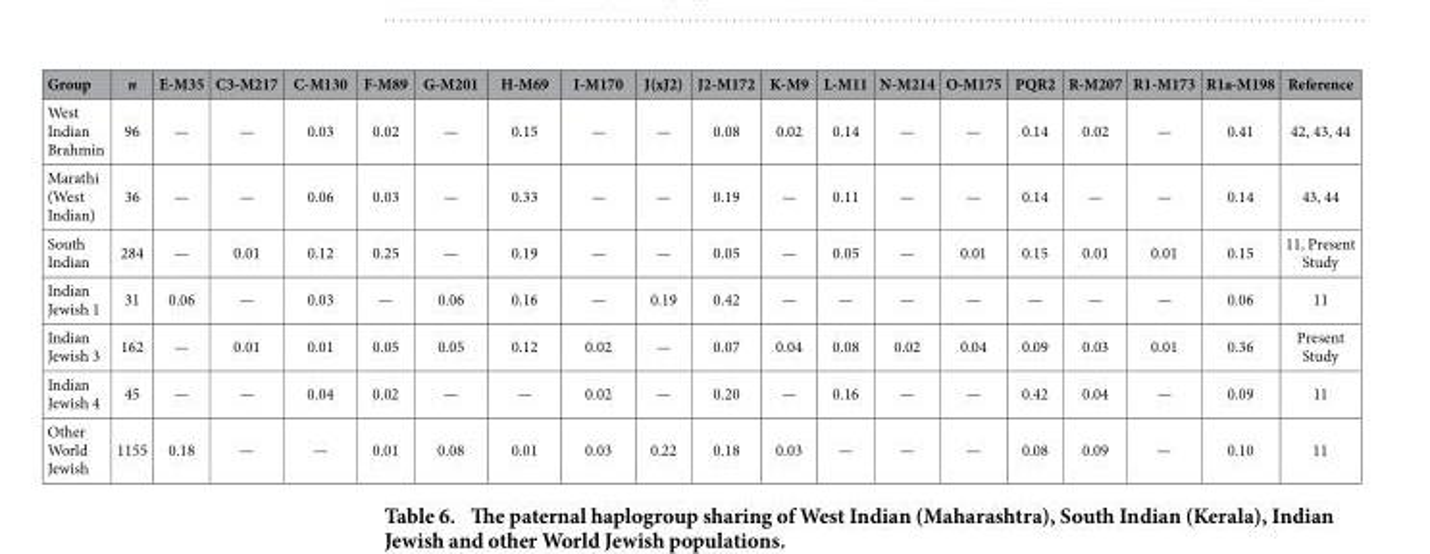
<table><thead><tr><td>Group</td><td>n</td><td>E-M35</td><td>C3-M217</td><td>C-M130</td><td>F-M89</td><td>G-M201</td><td>H-M69</td><td>I-M170</td><td>J(xJ2)</td><td>J2-M172</td><td>K-M9</td><td>L-M11</td><td>N-M214</td><td>O-M175</td><td>PQR2</td><td>R-M207</td><td>R1-M173</td><td>R1a-M198</td><td>Reference</td></tr></thead><tbody><tr><td>West Indian Brahmin</td><td>96</td><td>—</td><td>—</td><td>0.03</td><td>0.02</td><td>—</td><td>0.15</td><td>—</td><td>—</td><td>0.08</td><td>0.02</td><td>0.14</td><td>—</td><td>—</td><td>0.14</td><td>0.02</td><td>—</td><td>0.41</td><td>42, 43, 44</td></tr><tr><td>Marathi (West Indian)</td><td>36</td><td>—</td><td>—</td><td>0.06</td><td>0.03</td><td>—</td><td>0.33</td><td>—</td><td>—</td><td>0.19</td><td>—</td><td>0.11</td><td>—</td><td>—</td><td>0.14</td><td>—</td><td>—</td><td>0.14</td><td>43, 44</td></tr><tr><td>South Indian</td><td>284</td><td>—</td><td>0.01</td><td>0.12</td><td>0.25</td><td>—</td><td>0.19</td><td>—</td><td>—</td><td>0.05</td><td>—</td><td>0.05</td><td>—</td><td>0.01</td><td>0.15</td><td>0.01</td><td>0.01</td><td>0.15</td><td>11, Present Study</td></tr><tr><td>Indian Jewish 1</td><td>31</td><td>0.06</td><td>—</td><td>0.03</td><td>—</td><td>0.06</td><td>0.16</td><td>—</td><td>0.19</td><td>0.42</td><td>—</td><td>—</td><td>—</td><td>—</td><td>—</td><td>—</td><td>—</td><td>0.06</td><td>11</td></tr><tr><td>Indian Jewish 3</td><td>162</td><td>—</td><td>0.01</td><td>0.01</td><td>0.05</td><td>0.05</td><td>0.12</td><td>0.02</td><td>—</td><td>0.07</td><td>0.04</td><td>0.08</td><td>0.02</td><td>0.04</td><td>0.09</td><td>0.03</td><td>0.01</td><td>0.36</td><td>Present Study</td></tr><tr><td>Indian Jewish 4</td><td>45</td><td>—</td><td>—</td><td>0.04</td><td>0.02</td><td>—</td><td>—</td><td>0.02</td><td>—</td><td>0.20</td><td>—</td><td>0.16</td><td>—</td><td>—</td><td>0.42</td><td>0.04</td><td>—</td><td>0.09</td><td>11</td></tr><tr><td>Other World Jewish</td><td>1155</td><td>0.18</td><td>—</td><td>—</td><td>0.01</td><td>0.08</td><td>0.01</td><td>0.03</td><td>0.22</td><td>0.18</td><td>0.03</td><td>—</td><td>—</td><td>—</td><td>0.08</td><td>0.09</td><td>—</td><td>0.10</td><td>11</td></tr></tbody></table>